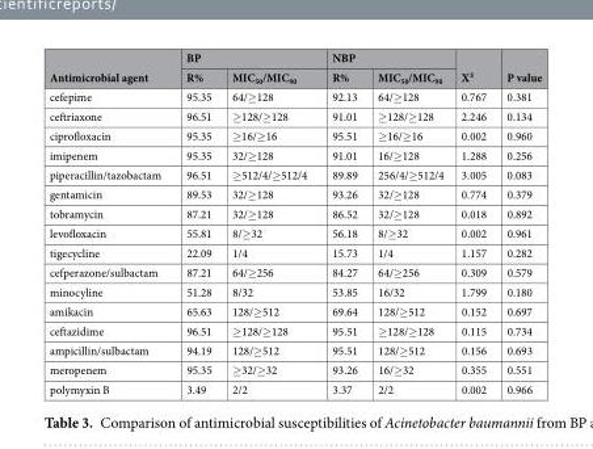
<table><thead><tr><td rowspan="2">Antimicrobial agent</td><td colspan="2">BP</td><td colspan="2">NBP</td><td rowspan="2">X²</td><td rowspan="2">P value</td></tr><tr><td>R%</td><td>MIC<sub>50</sub>/MIC<sub>90</sub></td><td>R%</td><td>MIC<sub>50</sub>/MIC<sub>90</sub></td></tr></thead><tbody><tr><td>cefepime</td><td>95.35</td><td>64/≥128</td><td>92.13</td><td>64/≥128</td><td>0.767</td><td>0.381</td></tr><tr><td>ceftriaxone</td><td>96.51</td><td>≥128/≥128</td><td>91.01</td><td>≥128/≥128</td><td>2.246</td><td>0.134</td></tr><tr><td>ciprofloxacin</td><td>95.35</td><td>≥16/≥16</td><td>95.51</td><td>≥16/≥16</td><td>0.002</td><td>0.960</td></tr><tr><td>imipenem</td><td>95.35</td><td>32/≥128</td><td>91.01</td><td>16/≥128</td><td>1.288</td><td>0.256</td></tr><tr><td>piperacillin/tazobactam</td><td>96.51</td><td>≥512/4/≥512/4</td><td>89.89</td><td>256/4/≥512/4</td><td>3.005</td><td>0.083</td></tr><tr><td>gentamicin</td><td>89.53</td><td>32/≥128</td><td>93.26</td><td>32/≥128</td><td>0.774</td><td>0.379</td></tr><tr><td>tobramycin</td><td>87.21</td><td>32/≥128</td><td>86.52</td><td>32/≥128</td><td>0.018</td><td>0.892</td></tr><tr><td>levofloxacin</td><td>55.81</td><td>8/≥32</td><td>56.18</td><td>8/≥32</td><td>0.002</td><td>0.961</td></tr><tr><td>tigecycline</td><td>22.09</td><td>1/4</td><td>15.73</td><td>1/4</td><td>1.157</td><td>0.282</td></tr><tr><td>cefperazone/sulbactam</td><td>87.21</td><td>64/≥256</td><td>84.27</td><td>64/≥256</td><td>0.309</td><td>0.579</td></tr><tr><td>minocyline</td><td>51.28</td><td>8/32</td><td>53.85</td><td>16/32</td><td>1.799</td><td>0.180</td></tr><tr><td>amikacin</td><td>65.63</td><td>128/≥512</td><td>69.64</td><td>128/≥512</td><td>0.152</td><td>0.697</td></tr><tr><td>ceftazidime</td><td>96.51</td><td>≥128/≥128</td><td>95.51</td><td>≥128/≥128</td><td>0.115</td><td>0.734</td></tr><tr><td>ampicillin/sulbactam</td><td>94.19</td><td>128/≥512</td><td>95.51</td><td>128/≥512</td><td>0.156</td><td>0.693</td></tr><tr><td>meropenem</td><td>95.35</td><td>≥32/≥32</td><td>93.26</td><td>16/≥32</td><td>0.355</td><td>0.551</td></tr><tr><td>polymyxin B</td><td>3.49</td><td>2/2</td><td>3.37</td><td>2/2</td><td>0.002</td><td>0.966</td></tr></tbody></table>